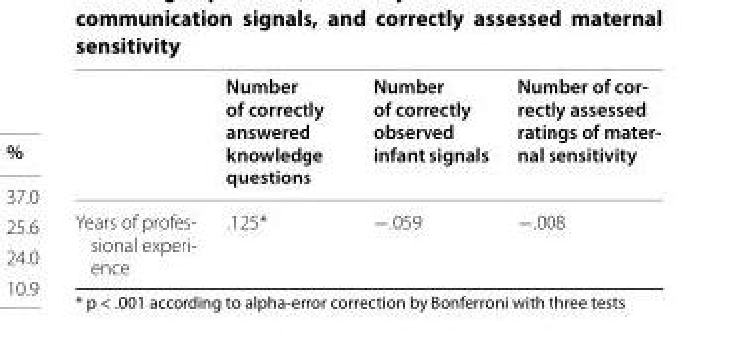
<table><thead><tr><td></td><td>Number of correctly answered knowledge questions</td><td>Number of correctly observed infant signals</td><td>Number of cor‑ rectly assessed ratings of mater‑ nal sensitivity</td></tr></thead><tbody><tr><td>Years of profes- sional experi- ence</td><td>.125*</td><td>−.059</td><td>−.008</td></tr></tbody></table>